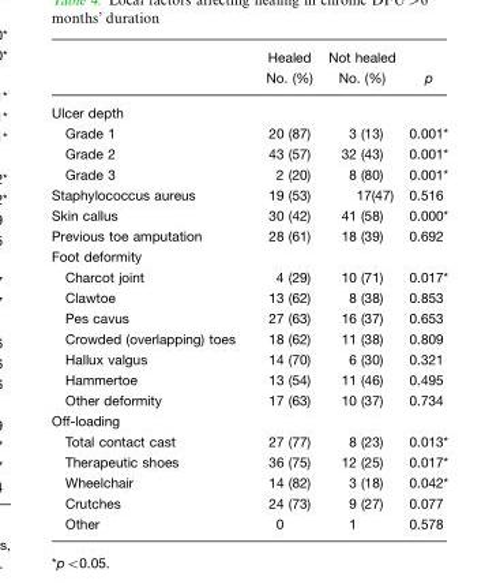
<table><thead><tr><td></td><td>Healed No. (%)</td><td>Not healed No. (%)</td><td>p</td></tr></thead><tbody><tr><td colspan="4">Ulcer depth</td></tr><tr><td>Grade 1</td><td>20 (87)</td><td>3 (13)</td><td>0.001*</td></tr><tr><td>Grade 2</td><td>43 (57)</td><td>32 (43)</td><td>0.001*</td></tr><tr><td>Grade 3</td><td>2 (20)</td><td>8 (80)</td><td>0.001*</td></tr><tr><td>Staphylococcus aureus</td><td>19 (53)</td><td>17(47)</td><td>0.516</td></tr><tr><td>Skin callus</td><td>30 (42)</td><td>41 (58)</td><td>0.000*</td></tr><tr><td>Previous toe amputation</td><td>28 (61)</td><td>18 (39)</td><td>0.692</td></tr><tr><td colspan="4">Foot deformity</td></tr><tr><td>Charcot joint</td><td>4 (29)</td><td>10 (71)</td><td>0.017*</td></tr><tr><td>Clawtoe</td><td>13 (62)</td><td>8 (38)</td><td>0.853</td></tr><tr><td>Pes cavus</td><td>27 (63)</td><td>16 (37)</td><td>0.653</td></tr><tr><td>Crowded (overlapping) toes</td><td>18 (62)</td><td>11 (38)</td><td>0.809</td></tr><tr><td>Hallux valgus</td><td>14 (70)</td><td>6 (30)</td><td>0.321</td></tr><tr><td>Hammertoe</td><td>13 (54)</td><td>11 (46)</td><td>0.495</td></tr><tr><td>Other deformity</td><td>17 (63)</td><td>10 (37)</td><td>0.734</td></tr><tr><td colspan="4">Off-loading</td></tr><tr><td>Total contact cast</td><td>27 (77)</td><td>8 (23)</td><td>0.013*</td></tr><tr><td>Therapeutic shoes</td><td>36 (75)</td><td>12 (25)</td><td>0.017*</td></tr><tr><td>Wheelchair</td><td>14 (82)</td><td>3 (18)</td><td>0.042*</td></tr><tr><td>Crutches</td><td>24 (73)</td><td>9 (27)</td><td>0.077</td></tr><tr><td>Other</td><td>0</td><td>1</td><td>0.578</td></tr></tbody></table>